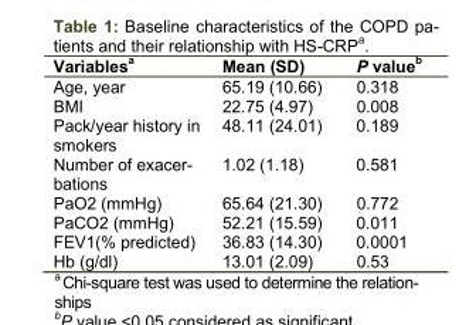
<table><thead><tr><td>Variables<sup>a</sup></td><td>Mean (SD)</td><td>P value<sup>b</sup></td></tr></thead><tbody><tr><td>Age, year</td><td>65.19 (10.66)</td><td>0.318</td></tr><tr><td>BMI</td><td>22.75 (4.97)</td><td>0.008</td></tr><tr><td>Pack/year history in smokers</td><td>48.11 (24.01)</td><td>0.189</td></tr><tr><td>Number of exacer- bations</td><td>1.02 (1.18)</td><td>0.581</td></tr><tr><td>PaO2 (mmHg)</td><td>65.64 (21.30)</td><td>0.772</td></tr><tr><td>PaCO2 (mmHg)</td><td>52.21 (15.59)</td><td>0.011</td></tr><tr><td>FEV1(% predicted)</td><td>36.83 (14.30)</td><td>0.0001</td></tr><tr><td>Hb (g/dl)</td><td>13.01 (2.09)</td><td>0.53</td></tr></tbody></table>